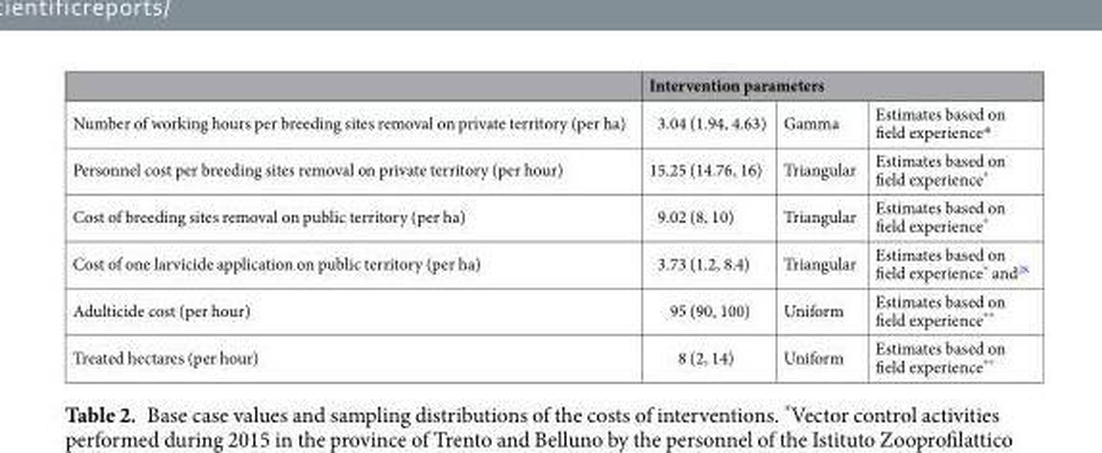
<table><thead><tr><td rowspan="2">Number of working hours per breeding sites removal on private territory (per ha)</td><td colspan="3">Intervention parameters</td></tr><tr><td>3.04 (1.94, 4.63)</td><td>Gamma</td><td>Estimates based on field experience*</td></tr></thead><tbody><tr><td>Personnel cost per breeding sites removal on private territory (per hour)</td><td>15.25 (14.76, 16)</td><td>Triangular</td><td>Estimates based on field experience*</td></tr><tr><td>Cost of breeding sites removal on public territory (per ha)</td><td>9.02 (8, 10)</td><td>Triangular</td><td>Estimates based on field experience*</td></tr><tr><td>Cost of one larvicide application on public territory (per ha)</td><td>3.73 (1.2, 8.4)</td><td>Triangular</td><td>Estimates based on field experience* and<sup>28</sup></td></tr><tr><td>Adulticide cost (per hour)</td><td>95 (90, 100)</td><td>Uniform</td><td>Estimates based on field experience**</td></tr><tr><td>Treated hectares (per hour)</td><td>8 (2, 14)</td><td>Uniform</td><td>Estimates based on field experience**</td></tr></tbody></table>